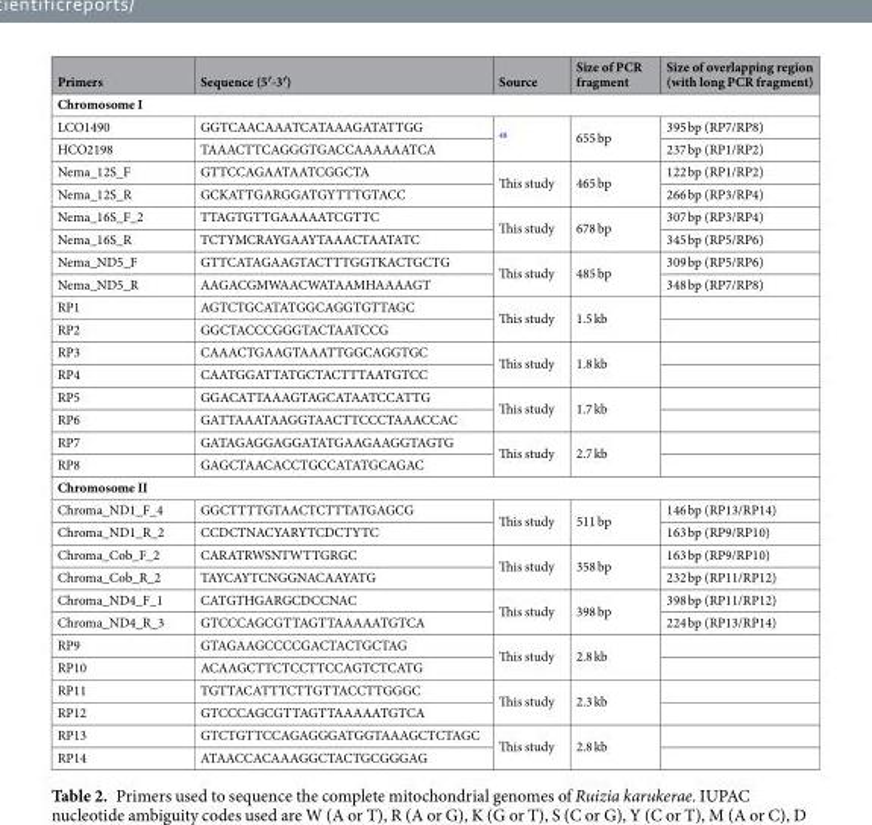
<table><thead><tr><td>Primers</td><td>Sequence (5′-3′)</td><td>Source</td><td>Size of PCR fragment</td><td>Size of overlapping region (with long PCR fragment)</td></tr></thead><tbody><tr><td colspan="5">Chromosome I</td></tr><tr><td>LCO1490</td><td>GGTCAACAAATCATAAAGATATTGG</td><td rowspan="2"><sup>48</sup></td><td rowspan="2">655 bp</td><td>395 bp (RP7/RP8)</td></tr><tr><td>HCO2198</td><td>TAAACTTCAGGGTGACCAAAAAATCA</td><td>237 bp (RP1/RP2)</td></tr><tr><td>Nema_12S_F</td><td>GTTCCAGAATAATCGGCTA</td><td rowspan="2">This study</td><td rowspan="2">465 bp</td><td>122 bp (RP1/RP2)</td></tr><tr><td>Nema_12S_R</td><td>GCKATTGARGGATGYTTTGTACC</td><td>266 bp (RP3/RP4)</td></tr><tr><td>Nema_16S_F_2</td><td>TTAGTGTTGAAAAATCGTTC</td><td rowspan="2">This study</td><td rowspan="2">678 bp</td><td>307 bp (RP3/RP4)</td></tr><tr><td>Nema_16S_R</td><td>TCTYMCRAYGAAYTAAACTAATATC</td><td>345 bp (RP5/RP6)</td></tr><tr><td>Nema_ND5_F</td><td>GTTCATAGAAGTACTTTGGTKACTGCTG</td><td rowspan="2">This study</td><td rowspan="2">485 bp</td><td>309 bp (RP5/RP6)</td></tr><tr><td>Nema_ND5_R</td><td>AAGACGMWAACWATAAMHAAAAGT</td><td>348 bp (RP7/RP8)</td></tr><tr><td>RP1</td><td>AGTCTGCATATGGCAGGTGTTAGC</td><td rowspan="2">This study</td><td rowspan="2">1.5 kb</td><td></td></tr><tr><td>RP2</td><td>GGCTACCCGGGTACTAATCCG</td><td></td></tr><tr><td>RP3</td><td>CAAACTGAAGTAAATTGGCAGGTGC</td><td rowspan="2">This study</td><td rowspan="2">1.8 kb</td><td></td></tr><tr><td>RP4</td><td>CAATGGATTATGCTACTTTAATGTCC</td><td></td></tr><tr><td>RP5</td><td>GGACATTAAAGTAGCATAATCCATTG</td><td rowspan="2">This study</td><td rowspan="2">1.7 kb</td><td></td></tr><tr><td>RP6</td><td>GATTAAATAAGGTAACTTCCCTAAACCAC</td><td></td></tr><tr><td>RP7</td><td>GATAGAGGAGGATATGAAGAAGGTAGTG</td><td rowspan="2">This study</td><td rowspan="2">2.7 kb</td><td></td></tr><tr><td>RP8</td><td>GAGCTAACACCTGCCATATGCAGAC</td><td></td></tr><tr><td colspan="5">Chromosome II</td></tr><tr><td>Chroma_ND1_F_4</td><td>GGCTTTTGTAACTCTTTATGAGCG</td><td rowspan="2">This study</td><td rowspan="2">511 bp</td><td>146 bp (RP13/RP14)</td></tr><tr><td>Chroma_ND1_R_2</td><td>CCDCTNACYARYTCDCTYTC</td><td>163 bp (RP9/RP10)</td></tr><tr><td>Chroma_Cob_F_2</td><td>CARATRWSNTWTTGRGC</td><td rowspan="2">This study</td><td rowspan="2">358 bp</td><td>163 bp (RP9/RP10)</td></tr><tr><td>Chroma_Cob_R_2</td><td>TAYCAYTCNGGNACAAYATG</td><td>232 bp (RP11/RP12)</td></tr><tr><td>Chroma_ND4_F_1</td><td>CATGTHGARGCDCCNAC</td><td rowspan="2">This study</td><td rowspan="2">398 bp</td><td>398 bp (RP11/RP12)</td></tr><tr><td>Chroma_ND4_R_3</td><td>GTCCCAGCGTTAGTTAAAAATGTCA</td><td>224 bp (RP13/RP14)</td></tr><tr><td>RP9</td><td>GTAGAAGCCCCGACTACTGCTAG</td><td rowspan="2">This study</td><td rowspan="2">2.8 kb</td><td></td></tr><tr><td>RP10</td><td>ACAAGCTTCTCCTTCCAGTCTCATG</td><td></td></tr><tr><td>RP11</td><td>TGTTACATTTCTTGTTACCTTGGGC</td><td rowspan="2">This study</td><td rowspan="2">2.3 kb</td><td></td></tr><tr><td>RP12</td><td>GTCCCAGCGTTAGTTAAAAATGTCA</td><td></td></tr><tr><td>RP13</td><td>GTCTGTTCCAGAGGGATGGTAAAGCTCTAGC</td><td rowspan="2">This study</td><td rowspan="2">2.8 kb</td><td></td></tr><tr><td>RP14</td><td>ATAACCACAAAGGCTACTGCGGGAG</td><td></td></tr></tbody></table>